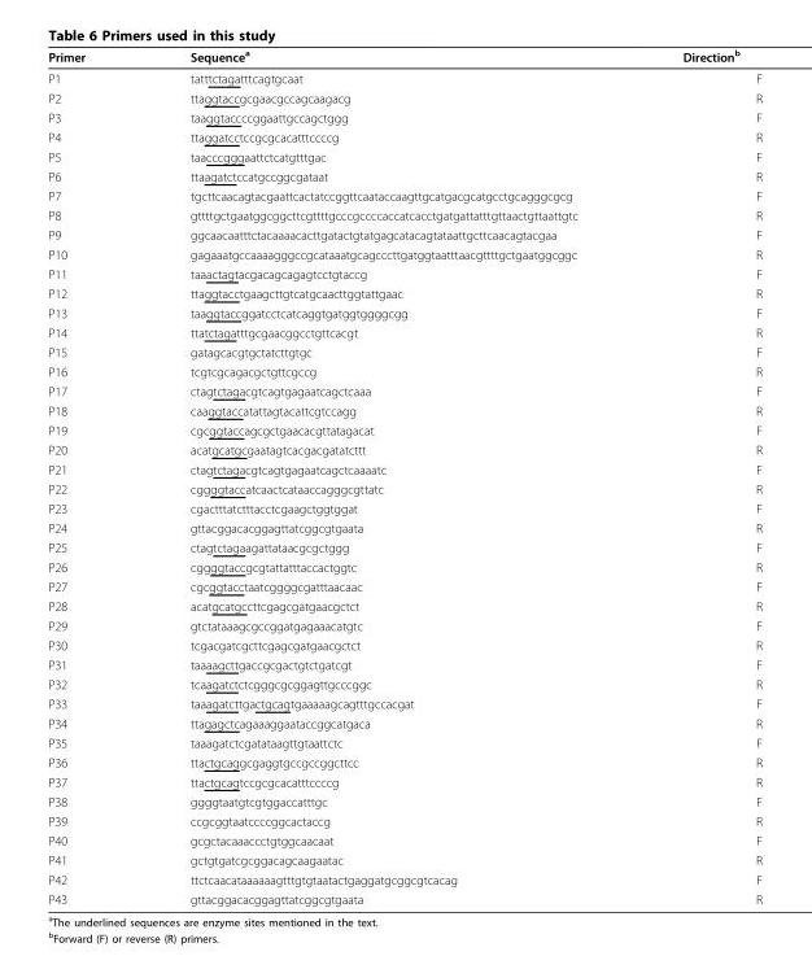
<table><thead><tr><td>Primer</td><td>Sequence<sup>a</sup></td><td>Direction<sup>b</sup></td></tr></thead><tbody><tr><td>P1</td><td>tatttctagatttcagtgcaat</td><td>F</td></tr><tr><td>P2</td><td>ttaggtaccgcgaacgccagcaagacg</td><td>R</td></tr><tr><td>P3</td><td>taaggtaccccggaattgccagctggg</td><td>F</td></tr><tr><td>P4</td><td>ttaggatcctccgcgcacatttccccg</td><td>R</td></tr><tr><td>P5</td><td>taacccgggaattctcatgtttgac</td><td>F</td></tr><tr><td>P6</td><td>ttaagatctccatgccggcgataat</td><td>R</td></tr><tr><td>P7</td><td>tgcttcaacagtacgaattcactatccggttcaataccaagttgcatgacgcatgcctgcagggcgcg</td><td>F</td></tr><tr><td>P8</td><td>gttttgctgaatggcggcttcgttttgcccgccccaccatcacctgatgattatttgttaactgttaattgtc</td><td>R</td></tr><tr><td>P9</td><td>ggcaacaatttctacaaaacacttgatactgtatgagcatacagtataattgcttcaacagtacgaa</td><td>F</td></tr><tr><td>P10</td><td>gagaaatgccaaaagggccgcataaatgcagcccttgatggtaatttaacgttttgctgaatggcggc</td><td>R</td></tr><tr><td>P11</td><td>taaactagtacgacagcagagtcctgtaccg</td><td>F</td></tr><tr><td>P12</td><td>ttaggtacctgaagcttgtcatgcaacttggtattgaac</td><td>R</td></tr><tr><td>P13</td><td>taaggtaccggatcctcatcaggtgatggtggggcgg</td><td>F</td></tr><tr><td>P14</td><td>ttatctagatttgcgaacggcctgttcacgt</td><td>R</td></tr><tr><td>P15</td><td>gatagcacgtgctatcttgtgc</td><td>F</td></tr><tr><td>P16</td><td>tcgtcgcagacgctgttcgccg</td><td>R</td></tr><tr><td>P17</td><td>ctagtctagacgtcagtgagaatcagctcaaa</td><td>F</td></tr><tr><td>P18</td><td>caaggtaccatattagtacattcgtccagg</td><td>R</td></tr><tr><td>P19</td><td>cgcggtaccagcgctgaacacgttatagacat</td><td>F</td></tr><tr><td>P20</td><td>acatgcatgcgaatagtcacgacgatatcttt</td><td>R</td></tr><tr><td>P21</td><td>ctagtctagacgtcagtgagaatcagctcaaaatc</td><td>F</td></tr><tr><td>P22</td><td>cggggtaccatcaactcataaccagggcgttatc</td><td>R</td></tr><tr><td>P23</td><td>cgactttatctttacctcgaagctggtggat</td><td>F</td></tr><tr><td>P24</td><td>gttacggacacggagttatcggcgtgaata</td><td>R</td></tr><tr><td>P25</td><td>ctagtctagaagattataacgcgctggg</td><td>F</td></tr><tr><td>P26</td><td>cggggtaccgcgtattatttaccactggtc</td><td>R</td></tr><tr><td>P27</td><td>cgcggtacctaatcggggcgatttaacaac</td><td>F</td></tr><tr><td>P28</td><td>acatgcatgccttcgagcgatgaacgctct</td><td>R</td></tr><tr><td>P29</td><td>gtctataaagcgccggatgagaaacatgtc</td><td>F</td></tr><tr><td>P30</td><td>tcgacgatcgcttcgagcgatgaacgctct</td><td>R</td></tr><tr><td>P31</td><td>taaaagcttgaccgcgactgtctgatcgt</td><td>F</td></tr><tr><td>P32</td><td>tcaagatctctcgggcgcggagttgcccggc</td><td>R</td></tr><tr><td>P33</td><td>taaagatcttgactgcagtgaaaaagcagtttgccacgat</td><td>F</td></tr><tr><td>P34</td><td>ttagagctcagaaaggaataccggcatgaca</td><td>R</td></tr><tr><td>P35</td><td>taaagatctcgatataagttgtaattctc</td><td>F</td></tr><tr><td>P36</td><td>ttactgcaggcgaggtgccgccggcttcc</td><td>R</td></tr><tr><td>P37</td><td>ttactgcagtccgcgcacatttccccg</td><td>R</td></tr><tr><td>P38</td><td>ggggtaatgtcgtggaccatttgc</td><td>F</td></tr><tr><td>P39</td><td>ccgcggtaatccccggcactaccg</td><td>R</td></tr><tr><td>P40</td><td>gcgctacaaaccctgtggcaacaat</td><td>F</td></tr><tr><td>P41</td><td>gctgtgatcgcggacagcaagaatac</td><td>R</td></tr><tr><td>P42</td><td>ttctcaacataaaaaagtttgtgtaatactgaggatgcggcgtcacag</td><td>F</td></tr><tr><td>P43</td><td>gttacggacacggagttatcggcgtgaata</td><td>R</td></tr></tbody></table>